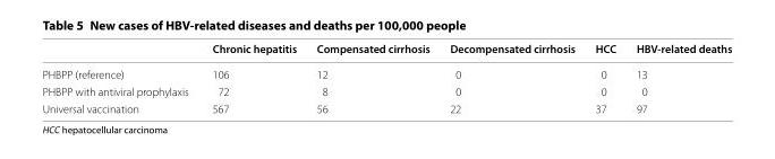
<table><thead><tr><td></td><td>Chronic hepatitis</td><td>Compensated cirrhosis</td><td>Decompensated cirrhosis</td><td>HCC</td><td>HBV-related deaths</td></tr></thead><tbody><tr><td>PHBPP (reference)</td><td>106</td><td>12</td><td>0</td><td>0</td><td>13</td></tr><tr><td>PHBPP with antiviral prophylaxis</td><td>72</td><td>8</td><td>0</td><td>0</td><td>0</td></tr><tr><td>Universal vaccination</td><td>567</td><td>56</td><td>22</td><td>37</td><td>97</td></tr></tbody></table>